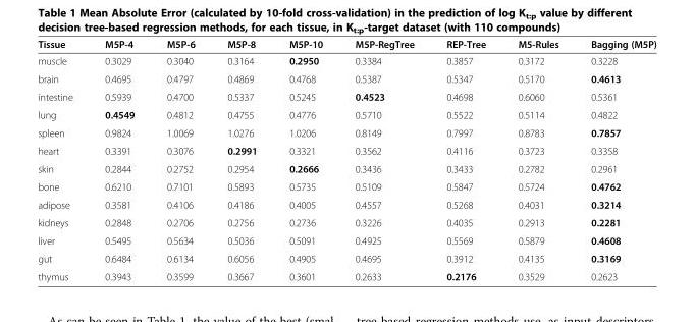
<table><thead><tr><td>Tissue</td><td>M5P-4</td><td>M5P-6</td><td>M5P-8</td><td>M5P-10</td><td>M5P-RegTree</td><td>REP-Tree</td><td>M5-Rules</td><td>Bagging (M5P)</td></tr></thead><tbody><tr><td>muscle</td><td>0.3029</td><td>0.3040</td><td>0.3164</td><td>0.2950</td><td>0.3384</td><td>0.3857</td><td>0.3172</td><td>0.3228</td></tr><tr><td>brain</td><td>0.4695</td><td>0.4797</td><td>0.4869</td><td>0.4768</td><td>0.5387</td><td>0.5347</td><td>0.5170</td><td>0.4613</td></tr><tr><td>intestine</td><td>0.5939</td><td>0.4700</td><td>0.5337</td><td>0.5245</td><td>0.4523</td><td>0.4698</td><td>0.6060</td><td>0.5361</td></tr><tr><td>lung</td><td>0.4549</td><td>0.4812</td><td>0.4755</td><td>0.4776</td><td>0.5710</td><td>0.5522</td><td>0.5114</td><td>0.4822</td></tr><tr><td>spleen</td><td>0.9824</td><td>1.0069</td><td>1.0276</td><td>1.0206</td><td>0.8149</td><td>0.7997</td><td>0.8783</td><td>0.7857</td></tr><tr><td>heart</td><td>0.3391</td><td>0.3076</td><td>0.2991</td><td>0.3321</td><td>0.3562</td><td>0.4116</td><td>0.3723</td><td>0.3358</td></tr><tr><td>skin</td><td>0.2844</td><td>0.2752</td><td>0.2954</td><td>0.2666</td><td>0.3436</td><td>0.3433</td><td>0.2782</td><td>0.2961</td></tr><tr><td>bone</td><td>0.6210</td><td>0.7101</td><td>0.5893</td><td>0.5735</td><td>0.5109</td><td>0.5847</td><td>0.5724</td><td>0.4762</td></tr><tr><td>adipose</td><td>0.3581</td><td>0.4106</td><td>0.4186</td><td>0.4005</td><td>0.4557</td><td>0.5268</td><td>0.4031</td><td>0.3214</td></tr><tr><td>kidneys</td><td>0.2848</td><td>0.2706</td><td>0.2756</td><td>0.2736</td><td>0.3226</td><td>0.4035</td><td>0.2913</td><td>0.2281</td></tr><tr><td>liver</td><td>0.5495</td><td>0.5634</td><td>0.5036</td><td>0.5091</td><td>0.4925</td><td>0.5569</td><td>0.5879</td><td>0.4608</td></tr><tr><td>gut</td><td>0.6484</td><td>0.6134</td><td>0.6056</td><td>0.4905</td><td>0.4695</td><td>0.3912</td><td>0.4135</td><td>0.3169</td></tr><tr><td>thymus</td><td>0.3943</td><td>0.3599</td><td>0.3667</td><td>0.3601</td><td>0.2633</td><td>0.2176</td><td>0.3529</td><td>0.2623</td></tr></tbody></table>